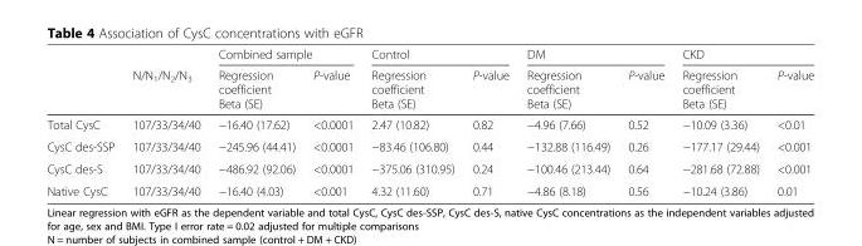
<table><thead><tr><td rowspan="2"></td><td rowspan="2">N/N<sub>1</sub>/N<sub>2</sub>/N<sub>3</sub></td><td colspan="2">Combined sample</td><td colspan="2">Control</td><td colspan="2">DM</td><td colspan="2">CKD</td></tr><tr><td>Regression coefficient Beta (SE)</td><td>P-value</td><td>Regression coefficient Beta (SE)</td><td>P-value</td><td>Regression coefficient Beta (SE)</td><td>P-value</td><td>Regression coefficient Beta (SE)</td><td>P-value</td></tr></thead><tbody><tr><td>Total CysC</td><td>107/33/34/40</td><td>−16.40 (17.62)</td><td>&lt;0.0001</td><td>2.47 (10.82)</td><td>0.82</td><td>−4.96 (7.66)</td><td>0.52</td><td>−10.09 (3.36)</td><td>&lt;0.01</td></tr><tr><td>CysC des-SSP</td><td>107/33/34/40</td><td>−245.96 (44.41)</td><td>&lt;0.0001</td><td>−83.46 (106.80)</td><td>0.44</td><td>−132.88 (116.49)</td><td>0.26</td><td>−177.17 (29.44)</td><td>&lt;0.001</td></tr><tr><td>CysC des-S</td><td>107/33/34/40</td><td>−486.92 (92.06)</td><td>&lt;0.0001</td><td>−375.06 (310.95)</td><td>0.24</td><td>−100.46 (213.44)</td><td>0.64</td><td>−281.68 (72.88)</td><td>&lt;0.001</td></tr><tr><td>Native CysC</td><td>107/33/34/40</td><td>−16.40 (4.03)</td><td>&lt;0.001</td><td>4.32 (11.60)</td><td>0.71</td><td>−4.86 (8.18)</td><td>0.56</td><td>−10.24 (3.86)</td><td>0.01</td></tr></tbody></table>